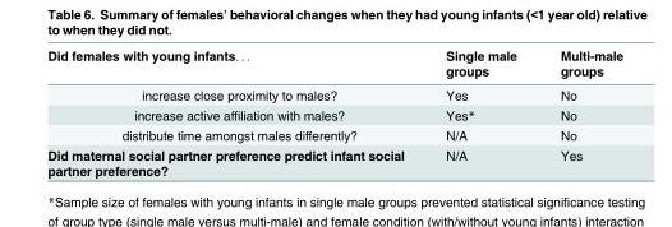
<table><thead><tr><td>Did females with young infants. . .</td><td>Single male groups</td><td>Multi-male groups</td></tr></thead><tbody><tr><td>increase close proximity to males?</td><td>Yes</td><td>No</td></tr><tr><td>increase active affiliation with males?</td><td>Yes*</td><td>No</td></tr><tr><td>distribute time amongst males differently?</td><td>N/A</td><td>No</td></tr><tr><td>Did maternal social partner preference predict infant social partner preference?</td><td>N/A</td><td>Yes</td></tr></tbody></table>